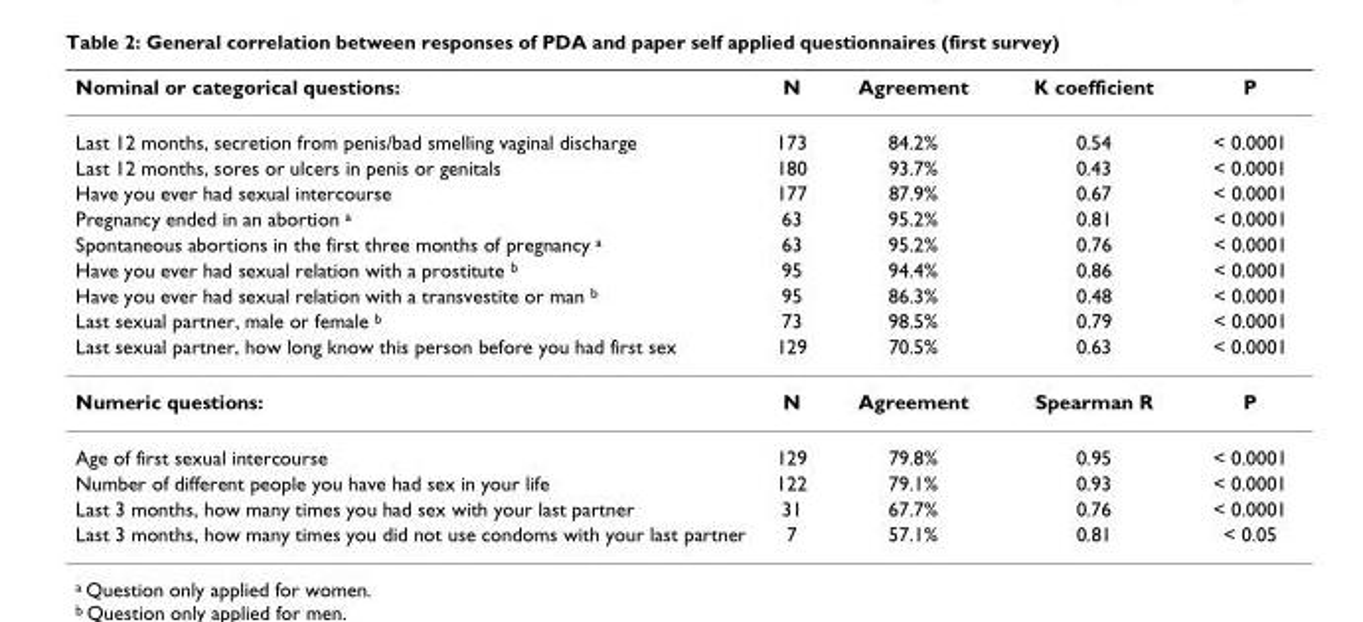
<table><thead><tr><td>Nominal or categorical questions:</td><td>N</td><td>Agreement</td><td>K coefficient</td><td>P</td></tr></thead><tbody><tr><td>Last 12 months, secretion from penis/bad smelling vaginal discharge</td><td>173</td><td>84.2%</td><td>0.54</td><td>&lt; 0.0001</td></tr><tr><td>Last 12 months, sores or ulcers in penis or genitals</td><td>180</td><td>93.7%</td><td>0.43</td><td>&lt; 0.0001</td></tr><tr><td>Have you ever had sexual intercourse</td><td>177</td><td>87.9%</td><td>0.67</td><td>&lt; 0.0001</td></tr><tr><td>Pregnancy ended in an abortion <sup>a</sup></td><td>63</td><td>95.2%</td><td>0.81</td><td>&lt; 0.0001</td></tr><tr><td>Spontaneous abortions in the first three months of pregnancy <sup>a</sup></td><td>63</td><td>95.2%</td><td>0.76</td><td>&lt; 0.0001</td></tr><tr><td>Have you ever had sexual relation with a prostitute <sup>b</sup></td><td>95</td><td>94.4%</td><td>0.86</td><td>&lt; 0.0001</td></tr><tr><td>Have you ever had sexual relation with a transvestite or man <sup>b</sup></td><td>95</td><td>86.3%</td><td>0.48</td><td>&lt; 0.0001</td></tr><tr><td>Last sexual partner, male or female <sup>b</sup></td><td>73</td><td>98.5%</td><td>0.79</td><td>&lt; 0.0001</td></tr><tr><td>Last sexual partner, how long know this person before you had first sex</td><td>129</td><td>70.5%</td><td>0.63</td><td>&lt; 0.0001</td></tr><tr><td>Numeric questions:</td><td>N</td><td>Agreement</td><td>Spearman R</td><td>P</td></tr><tr><td>Age of first sexual intercourse</td><td>129</td><td>79.8%</td><td>0.95</td><td>&lt; 0.0001</td></tr><tr><td>Number of different people you have had sex in your life</td><td>122</td><td>79.1%</td><td>0.93</td><td>&lt; 0.0001</td></tr><tr><td>Last 3 months, how many times you had sex with your last partner</td><td>31</td><td>67.7%</td><td>0.76</td><td>&lt; 0.0001</td></tr><tr><td>Last 3 months, how many times you did not use condoms with your last partner</td><td>7</td><td>57.1%</td><td>0.81</td><td>&lt; 0.05</td></tr></tbody></table>